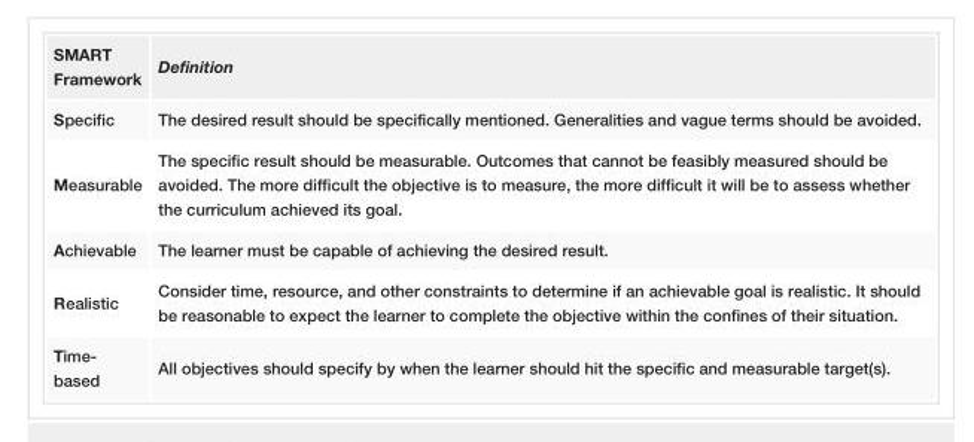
<table><tbody><tr><td>SMART Framework</td><td>Definition</td></tr><tr><td>Specific</td><td>The desired result should be specifically mentioned. Generalities and vague terms should be avoided.</td></tr><tr><td>Measurable</td><td>The specific result should be measurable. Outcomes that cannot be feasibly measured should be avoided. The more difficult the objective is to measure, the more difficult it will be to assess whether the curriculum achieved its goal.</td></tr><tr><td>Achievable</td><td>The learner must be capable of achieving the desired result.</td></tr><tr><td>Realistic</td><td>Consider time, resource, and other constraints to determine if an achievable goal is realistic. It should be reasonable to expect the learner to complete the objective within the confines of their situation.</td></tr><tr><td>Time- based</td><td>All objectives should specify by when the learner should hit the specific and measurable target(s).</td></tr></tbody></table>